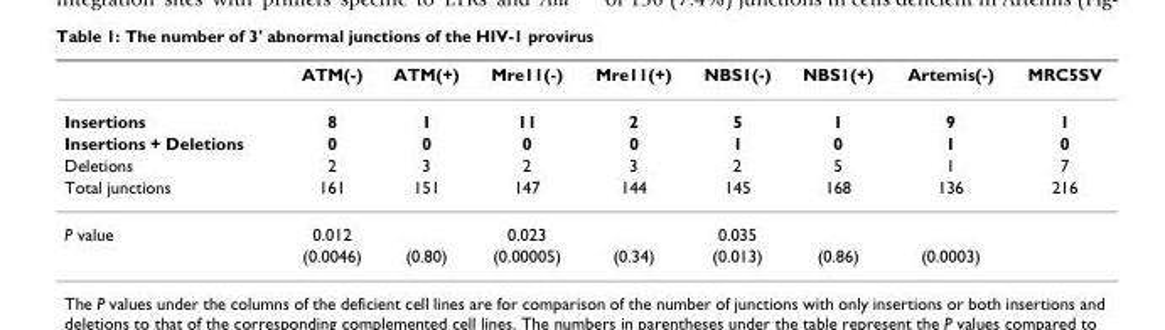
<table><thead><tr><td></td><td>ATM(-)</td><td>ATM(+)</td><td>Mre11(-)</td><td>Mre11(+)</td><td>NBS1(-)</td><td>NBS1(+)</td><td>Artemis(-)</td><td>MRC5SV</td></tr></thead><tbody><tr><td>Insertions</td><td>8</td><td>1</td><td>11</td><td>2</td><td>5</td><td>1</td><td>9</td><td>1</td></tr><tr><td>Insertions + Deletions</td><td>0</td><td>0</td><td>0</td><td>0</td><td>1</td><td>0</td><td>1</td><td>0</td></tr><tr><td>Deletions</td><td>2</td><td>3</td><td>2</td><td>3</td><td>2</td><td>5</td><td>1</td><td>7</td></tr><tr><td>Total junctions</td><td>161</td><td>151</td><td>147</td><td>144</td><td>145</td><td>168</td><td>136</td><td>216</td></tr><tr><td rowspan="2">P value</td><td>0.012</td><td></td><td>0.023</td><td></td><td>0.035</td><td></td><td></td><td></td></tr><tr><td>(0.0046)</td><td>(0.80)</td><td>(0.00005)</td><td>(0.34)</td><td>(0.013)</td><td>(0.86)</td><td>(0.0003)</td><td></td></tr></tbody></table>